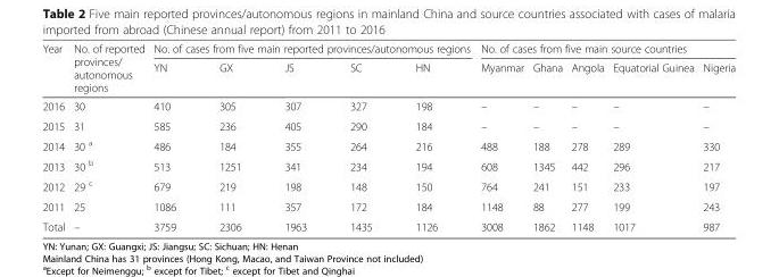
<table><thead><tr><td rowspan="2">Year</td><td rowspan="2">No. of reported provinces/ autonomous regions</td><td colspan="5">No. of cases from five main reported provinces/autonomous regions</td><td colspan="5">No. of cases from five main source countries</td></tr><tr><td>YN</td><td>GX</td><td>JS</td><td>SC</td><td>HN</td><td>Myanmar</td><td>Ghana</td><td>Angola</td><td>Equatorial Guinea</td><td>Nigeria</td></tr></thead><tbody><tr><td>2016</td><td>30</td><td>410</td><td>305</td><td>307</td><td>327</td><td>198</td><td>–</td><td>–</td><td>–</td><td>–</td><td>–</td></tr><tr><td>2015</td><td>31</td><td>585</td><td>236</td><td>405</td><td>290</td><td>184</td><td>–</td><td>–</td><td>–</td><td>–</td><td>–</td></tr><tr><td>2014</td><td>30 <sup>a</sup></td><td>486</td><td>184</td><td>355</td><td>264</td><td>216</td><td>488</td><td>188</td><td>278</td><td>289</td><td>330</td></tr><tr><td>2013</td><td>30 <sup>b</sup></td><td>513</td><td>1251</td><td>341</td><td>234</td><td>194</td><td>608</td><td>1345</td><td>442</td><td>296</td><td>217</td></tr><tr><td>2012</td><td>29 <sup>c</sup></td><td>679</td><td>219</td><td>198</td><td>148</td><td>150</td><td>764</td><td>241</td><td>151</td><td>233</td><td>197</td></tr><tr><td>2011</td><td>25</td><td>1086</td><td>111</td><td>357</td><td>172</td><td>184</td><td>1148</td><td>88</td><td>277</td><td>199</td><td>243</td></tr><tr><td>Total</td><td>–</td><td>3759</td><td>2306</td><td>1963</td><td>1435</td><td>1126</td><td>3008</td><td>1862</td><td>1148</td><td>1017</td><td>987</td></tr></tbody></table>